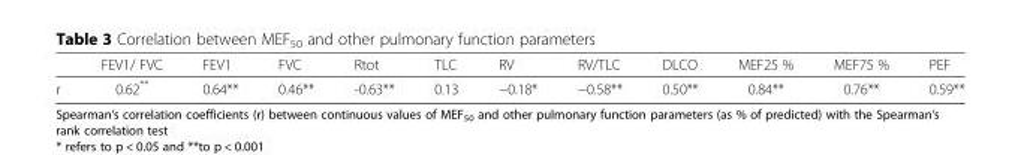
<table><thead><tr><td></td><td>FEV1/ FVC</td><td>FEV1</td><td>FVC</td><td>Rtot</td><td>TLC</td><td>RV</td><td>RV/TLC</td><td>DLCO</td><td>MEF25 %</td><td>MEF75 %</td><td>PEF</td></tr></thead><tbody><tr><td>r</td><td>0.62**</td><td>0.64**</td><td>0.46**</td><td>-0.63**</td><td>0.13</td><td>−0.18*</td><td>−0.58**</td><td>0.50**</td><td>0.84**</td><td>0.76**</td><td>0.59**</td></tr></tbody></table>